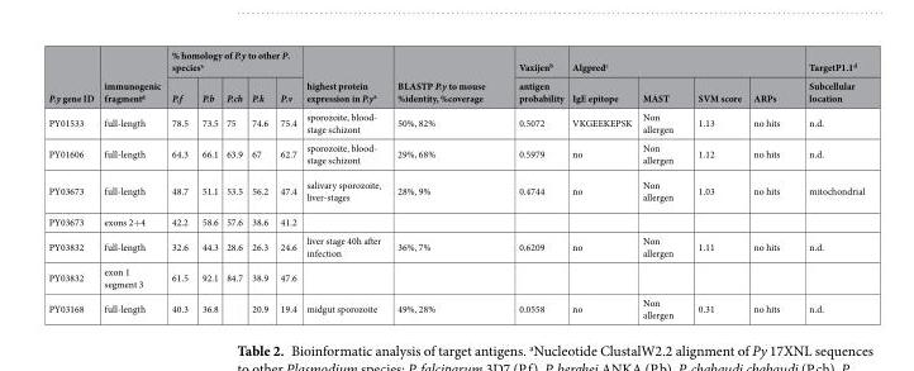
<table><thead><tr><td rowspan="2">P.y gene ID</td><td rowspan="2">immunogenic fragment<sup>g</sup></td><td colspan="5">% homology of P.y to other P. species<sup>a</sup></td><td rowspan="2">highest protein expression in P.y<sup>a</sup></td><td rowspan="2">BLASTP P.y to mouse %identity, %coverage</td><td rowspan="2">Vaxijen<sup>b</sup> antigen probability</td><td colspan="4">Algpred<sup>c</sup></td><td rowspan="2">TargetP1.1<sup>d</sup> Subcellular location</td></tr><tr><td>P.f</td><td>P.b</td><td>P.ch</td><td>P.k</td><td>P.v</td><td>IgE epitope</td><td>MAST</td><td>SVM score</td><td>ARPs</td></tr></thead><tbody><tr><td>PY01533</td><td>full-length</td><td>78.5</td><td>73.5</td><td>75</td><td>74.6</td><td>75.4</td><td>sporozoite, blood- stage schizont</td><td>50%, 82%</td><td>0.5072</td><td>VKGEEKEPSK</td><td>Non allergen</td><td>1.13</td><td>no hits</td><td>n.d.</td></tr><tr><td>PY01606</td><td>full-length</td><td>64.3</td><td>66.1</td><td>63.9</td><td>67</td><td>62.7</td><td>sporozoite, blood- stage schizont</td><td>29%, 68%</td><td>0.5979</td><td>no</td><td>Non allergen</td><td>1.12</td><td>no hits</td><td>n.d.</td></tr><tr><td>PY03673</td><td>full-length</td><td>48.7</td><td>51.1</td><td>53.5</td><td>56.2</td><td>47.4</td><td>salivary sporozoite, liver-stages</td><td>28%, 9%</td><td>0.4744</td><td>no</td><td>Non allergen</td><td>1.03</td><td>no hits</td><td>mitochondrial</td></tr><tr><td>PY03673</td><td>exons 2+4</td><td>42.2</td><td>58.6</td><td>57.6</td><td>38.6</td><td>41.2</td><td></td><td></td><td></td><td></td><td></td><td></td><td></td><td></td></tr><tr><td>PY03832</td><td>full-length</td><td>32.6</td><td>44.3</td><td>28.6</td><td>26.3</td><td>24.6</td><td>liver stage 40h after infection</td><td>36%, 7%</td><td>0.6209</td><td>no</td><td>Non allergen</td><td>1.11</td><td>no hits</td><td>n.d.</td></tr><tr><td>PY03832</td><td>exon 1 segment 3</td><td>61.5</td><td>92.1</td><td>84.7</td><td>38.9</td><td>47.6</td><td></td><td></td><td></td><td></td><td></td><td></td><td></td><td></td></tr><tr><td>PY03168</td><td>full-length</td><td>40.3</td><td>36.8</td><td></td><td>20.9</td><td>19.4</td><td>midgut sporozoite</td><td>49%, 28%</td><td>0.0558</td><td>no</td><td>Non allergen</td><td>0.31</td><td>no hits</td><td>n.d.</td></tr></tbody></table>